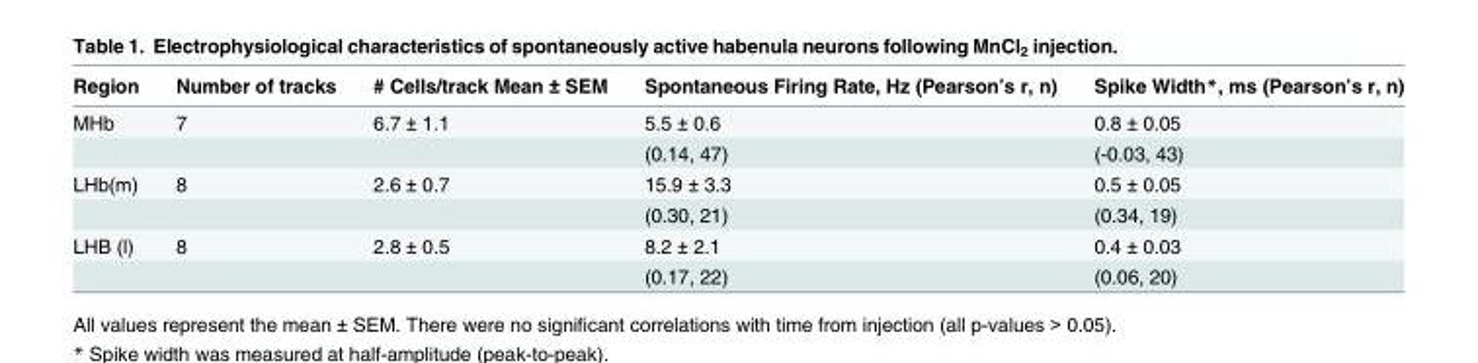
<table><thead><tr><td>Region</td><td>Number of tracks</td><td># Cells/track Mean ± SEM</td><td>Spontaneous Firing Rate, Hz (Pearson’s r, n)</td><td>Spike Width*, ms (Pearson’s r, n)</td></tr></thead><tbody><tr><td rowspan="2">MHb</td><td>7</td><td>6.7 ± 1.1</td><td>5.5 ± 0.6</td><td>0.8 ± 0.05</td></tr><tr><td></td><td></td><td>(0.14, 47)</td><td>(-0.03, 43)</td></tr><tr><td rowspan="2">LHb(m)</td><td>8</td><td>2.6 ± 0.7</td><td>15.9 ± 3.3</td><td>0.5 ± 0.05</td></tr><tr><td></td><td></td><td>(0.30, 21)</td><td>(0.34, 19)</td></tr><tr><td rowspan="2">LHB (l)</td><td>8</td><td>2.8 ± 0.5</td><td>8.2 ± 2.1</td><td>0.4 ± 0.03</td></tr><tr><td></td><td></td><td>(0.17, 22)</td><td>(0.06, 20)</td></tr></tbody></table>